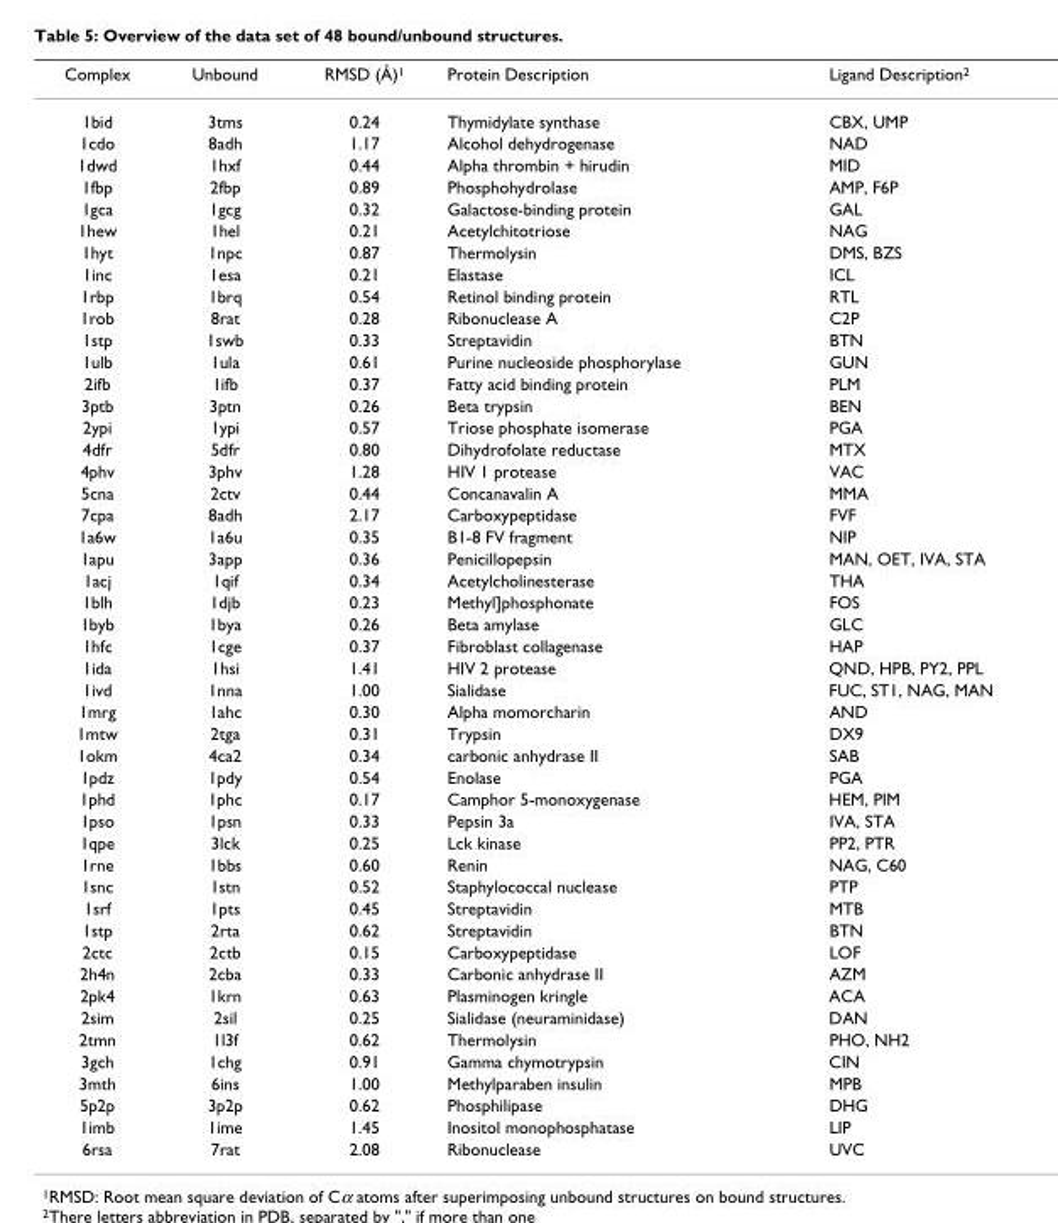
<table><thead><tr><td>Complex</td><td>Unbound</td><td>RMSD (Å)1</td><td>Protein Description</td><td>Ligand Description2</td></tr></thead><tbody><tr><td>1bid</td><td>3tms</td><td>0.24</td><td>Thymidylate synthase</td><td>CBX, UMP</td></tr><tr><td>1cdo</td><td>8adh</td><td>1.17</td><td>Alcohol dehydrogenase</td><td>NAD</td></tr><tr><td>1dwd</td><td>1hxf</td><td>0.44</td><td>Alpha thrombin + hirudin</td><td>MID</td></tr><tr><td>1fbp</td><td>2fbp</td><td>0.89</td><td>Phosphohydrolase</td><td>AMP, F6P</td></tr><tr><td>1gca</td><td>1gcg</td><td>0.32</td><td>Galactose-binding protein</td><td>GAL</td></tr><tr><td>1hew</td><td>1hel</td><td>0.21</td><td>Acetylchitotriose</td><td>NAG</td></tr><tr><td>1hyt</td><td>1npc</td><td>0.87</td><td>Thermolysin</td><td>DMS, BZS</td></tr><tr><td>1inc</td><td>1esa</td><td>0.21</td><td>Elastase</td><td>ICL</td></tr><tr><td>1rbp</td><td>1brq</td><td>0.54</td><td>Retinol binding protein</td><td>RTL</td></tr><tr><td>1rob</td><td>8rat</td><td>0.28</td><td>Ribonuclease A</td><td>C2P</td></tr><tr><td>1stp</td><td>1swb</td><td>0.33</td><td>Streptavidin</td><td>BTN</td></tr><tr><td>1ulb</td><td>1ula</td><td>0.61</td><td>Purine nucleoside phosphorylase</td><td>GUN</td></tr><tr><td>2ifb</td><td>1ifb</td><td>0.37</td><td>Fatty acid binding protein</td><td>PLM</td></tr><tr><td>3ptb</td><td>3ptn</td><td>0.26</td><td>Beta trypsin</td><td>BEN</td></tr><tr><td>2ypi</td><td>1ypi</td><td>0.57</td><td>Triose phosphate isomerase</td><td>PGA</td></tr><tr><td>4dfr</td><td>5dfr</td><td>0.80</td><td>Dihydrofolate reductase</td><td>MTX</td></tr><tr><td>4phv</td><td>3phv</td><td>1.28</td><td>HIV 1 protease</td><td>VAC</td></tr><tr><td>5cna</td><td>2ctv</td><td>0.44</td><td>Concanavalin A</td><td>MMA</td></tr><tr><td>7cpa</td><td>8adh</td><td>2.17</td><td>Carboxypeptidase</td><td>FVF</td></tr><tr><td>1a6w</td><td>1a6u</td><td>0.35</td><td>B1-8 FV fragment</td><td>NIP</td></tr><tr><td>1apu</td><td>3app</td><td>0.36</td><td>Penicillopepsin</td><td>MAN, OET, IVA, STA</td></tr><tr><td>1acj</td><td>1qif</td><td>0.34</td><td>Acetylcholinesterase</td><td>THA</td></tr><tr><td>1blh</td><td>1djb</td><td>0.23</td><td>Methyl]phosphonate</td><td>FOS</td></tr><tr><td>1byb</td><td>1bya</td><td>0.26</td><td>Beta amylase</td><td>GLC</td></tr><tr><td>1hfc</td><td>1cge</td><td>0.37</td><td>Fibroblast collagenase</td><td>HAP</td></tr><tr><td>1ida</td><td>1hsi</td><td>1.41</td><td>HIV 2 protease</td><td>QND, HPB, PY2, PPL</td></tr><tr><td>1ivd</td><td>1nna</td><td>1.00</td><td>Sialidase</td><td>FUC, ST1, NAG, MAN</td></tr><tr><td>1mrg</td><td>1ahc</td><td>0.30</td><td>Alpha momorcharin</td><td>AND</td></tr><tr><td>1mtw</td><td>2tga</td><td>0.31</td><td>Trypsin</td><td>DX9</td></tr><tr><td>1okm</td><td>4ca2</td><td>0.34</td><td>carbonic anhydrase II</td><td>SAB</td></tr><tr><td>1pdz</td><td>1pdy</td><td>0.54</td><td>Enolase</td><td>PGA</td></tr><tr><td>1phd</td><td>1phc</td><td>0.17</td><td>Camphor 5-monoxygenase</td><td>HEM, PIM</td></tr><tr><td>1pso</td><td>1psn</td><td>0.33</td><td>Pepsin 3a</td><td>IVA, STA</td></tr><tr><td>1qpe</td><td>3lck</td><td>0.25</td><td>Lck kinase</td><td>PP2, PTR</td></tr><tr><td>1rne</td><td>1bbs</td><td>0.60</td><td>Renin</td><td>NAG, C60</td></tr><tr><td>1snc</td><td>1stn</td><td>0.52</td><td>Staphylococcal nuclease</td><td>PTP</td></tr><tr><td>1srf</td><td>1pts</td><td>0.45</td><td>Streptavidin</td><td>MTB</td></tr><tr><td>1stp</td><td>2rta</td><td>0.62</td><td>Streptavidin</td><td>BTN</td></tr><tr><td>2ctc</td><td>2ctb</td><td>0.15</td><td>Carboxypeptidase</td><td>LOF</td></tr><tr><td>2h4n</td><td>2cba</td><td>0.33</td><td>Carbonic anhydrase II</td><td>AZM</td></tr><tr><td>2pk4</td><td>1krn</td><td>0.63</td><td>Plasminogen kringle</td><td>ACA</td></tr><tr><td>2sim</td><td>2sil</td><td>0.25</td><td>Sialidase (neuraminidase)</td><td>DAN</td></tr><tr><td>2tmn</td><td>1l3f</td><td>0.62</td><td>Thermolysin</td><td>PHO, NH2</td></tr><tr><td>3gch</td><td>1chg</td><td>0.91</td><td>Gamma chymotrypsin</td><td>CIN</td></tr><tr><td>3mth</td><td>6ins</td><td>1.00</td><td>Methylparaben insulin</td><td>MPB</td></tr><tr><td>5p2p</td><td>3p2p</td><td>0.62</td><td>Phosphilipase</td><td>DHG</td></tr><tr><td>1imb</td><td>1ime</td><td>1.45</td><td>Inositol monophosphatase</td><td>LIP</td></tr><tr><td>6rsa</td><td>7rat</td><td>2.08</td><td>Ribonuclease</td><td>UVC</td></tr></tbody></table>